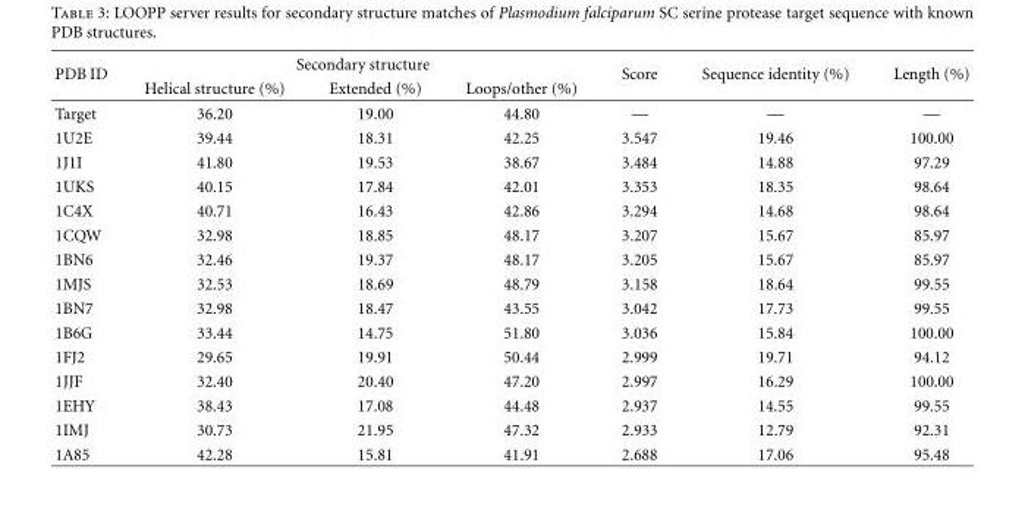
<table><thead><tr><td rowspan="2">PDB ID</td><td colspan="3">Secondary structure</td><td rowspan="2">Score</td><td rowspan="2">Sequence identity (%)</td><td rowspan="2">Length (%)</td></tr><tr><td>Helical structure (%)</td><td>Extended (%)</td><td>Loops/other (%)</td></tr></thead><tbody><tr><td>Target</td><td>36.20</td><td>19.00</td><td>44.80</td><td>—</td><td>—</td><td>—</td></tr><tr><td>1U2E</td><td>39.44</td><td>18.31</td><td>42.25</td><td>3.547</td><td>19.46</td><td>100.00</td></tr><tr><td>1J1I</td><td>41.80</td><td>19.53</td><td>38.67</td><td>3.484</td><td>14.88</td><td>97.29</td></tr><tr><td>1UKS</td><td>40.15</td><td>17.84</td><td>42.01</td><td>3.353</td><td>18.35</td><td>98.64</td></tr><tr><td>1C4X</td><td>40.71</td><td>16.43</td><td>42.86</td><td>3.294</td><td>14.68</td><td>98.64</td></tr><tr><td>1CQW</td><td>32.98</td><td>18.85</td><td>48.17</td><td>3.207</td><td>15.67</td><td>85.97</td></tr><tr><td>1BN6</td><td>32.46</td><td>19.37</td><td>48.17</td><td>3.205</td><td>15.67</td><td>85.97</td></tr><tr><td>1MJS</td><td>32.53</td><td>18.69</td><td>48.79</td><td>3.158</td><td>18.64</td><td>99.55</td></tr><tr><td>1BN7</td><td>32.98</td><td>18.47</td><td>43.55</td><td>3.042</td><td>17.73</td><td>99.55</td></tr><tr><td>1B6G</td><td>33.44</td><td>14.75</td><td>51.80</td><td>3.036</td><td>15.84</td><td>100.00</td></tr><tr><td>1FJ2</td><td>29.65</td><td>19.91</td><td>50.44</td><td>2.999</td><td>19.71</td><td>94.12</td></tr><tr><td>1JJF</td><td>32.40</td><td>20.40</td><td>47.20</td><td>2.997</td><td>16.29</td><td>100.00</td></tr><tr><td>1EHY</td><td>38.43</td><td>17.08</td><td>44.48</td><td>2.937</td><td>14.55</td><td>99.55</td></tr><tr><td>1IMJ</td><td>30.73</td><td>21.95</td><td>47.32</td><td>2.933</td><td>12.79</td><td>92.31</td></tr><tr><td>1A85</td><td>42.28</td><td>15.81</td><td>41.91</td><td>2.688</td><td>17.06</td><td>95.48</td></tr></tbody></table>